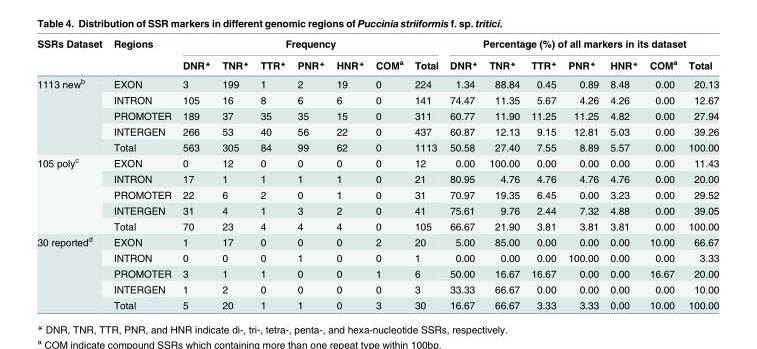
<table><thead><tr><td rowspan="2">SSRs Dataset</td><td rowspan="2">Regions</td><td colspan="7">Frequency</td><td colspan="7">Percentage (%) of all markers in its dataset</td></tr><tr><td>DNR*</td><td>TNR*</td><td>TTR*</td><td>PNR*</td><td>HNR*</td><td>COM<sup>a</sup></td><td>Total</td><td>DNR*</td><td>TNR*</td><td>TTR*</td><td>PNR*</td><td>HNR*</td><td>COM<sup>a</sup></td><td>Total</td></tr></thead><tbody><tr><td rowspan="5">1113 new<sup>b</sup></td><td>EXON</td><td>3</td><td>199</td><td>1</td><td>2</td><td>19</td><td>0</td><td>224</td><td>1.34</td><td>88.84</td><td>0.45</td><td>0.89</td><td>8.48</td><td>0.00</td><td>20.13</td></tr><tr><td>INTRON</td><td>105</td><td>16</td><td>8</td><td>6</td><td>6</td><td>0</td><td>141</td><td>74.47</td><td>11.35</td><td>5.67</td><td>4.26</td><td>4.26</td><td>0.00</td><td>12.67</td></tr><tr><td>PROMOTER</td><td>189</td><td>37</td><td>35</td><td>35</td><td>15</td><td>0</td><td>311</td><td>60.77</td><td>11.90</td><td>11.25</td><td>11.25</td><td>4.82</td><td>0.00</td><td>27.94</td></tr><tr><td>INTERGEN</td><td>266</td><td>53</td><td>40</td><td>56</td><td>22</td><td>0</td><td>437</td><td>60.87</td><td>12.13</td><td>9.15</td><td>12.81</td><td>5.03</td><td>0.00</td><td>39.26</td></tr><tr><td>Total</td><td>563</td><td>305</td><td>84</td><td>99</td><td>62</td><td>0</td><td>1113</td><td>50.58</td><td>27.40</td><td>7.55</td><td>8.89</td><td>5.57</td><td>0.00</td><td>100.00</td></tr><tr><td rowspan="5">105 poly<sup>c</sup></td><td>EXON</td><td>0</td><td>12</td><td>0</td><td>0</td><td>0</td><td>0</td><td>12</td><td>0.00</td><td>100.00</td><td>0.00</td><td>0.00</td><td>0.00</td><td>0.00</td><td>11.43</td></tr><tr><td>INTRON</td><td>17</td><td>1</td><td>1</td><td>1</td><td>1</td><td>0</td><td>21</td><td>80.95</td><td>4.76</td><td>4.76</td><td>4.76</td><td>4.76</td><td>0.00</td><td>20.00</td></tr><tr><td>PROMOTER</td><td>22</td><td>6</td><td>2</td><td>0</td><td>1</td><td>0</td><td>31</td><td>70.97</td><td>19.35</td><td>6.45</td><td>0.00</td><td>3.23</td><td>0.00</td><td>29.52</td></tr><tr><td>INTERGEN</td><td>31</td><td>4</td><td>1</td><td>3</td><td>2</td><td>0</td><td>41</td><td>75.61</td><td>9.76</td><td>2.44</td><td>7.32</td><td>4.88</td><td>0.00</td><td>39.05</td></tr><tr><td>Total</td><td>70</td><td>23</td><td>4</td><td>4</td><td>4</td><td>0</td><td>105</td><td>66.67</td><td>21.90</td><td>3.81</td><td>3.81</td><td>3.81</td><td>0.00</td><td>100.00</td></tr><tr><td rowspan="5">30 reported<sup>d</sup></td><td>EXON</td><td>1</td><td>17</td><td>0</td><td>0</td><td>0</td><td>2</td><td>20</td><td>5.00</td><td>85.00</td><td>0.00</td><td>0.00</td><td>0.00</td><td>10.00</td><td>66.67</td></tr><tr><td>INTRON</td><td>0</td><td>0</td><td>0</td><td>1</td><td>0</td><td>0</td><td>1</td><td>0.00</td><td>0.00</td><td>0.00</td><td>100.00</td><td>0.00</td><td>0.00</td><td>3.33</td></tr><tr><td>PROMOTER</td><td>3</td><td>1</td><td>1</td><td>0</td><td>0</td><td>1</td><td>6</td><td>50.00</td><td>16.67</td><td>16.67</td><td>0.00</td><td>0.00</td><td>16.67</td><td>20.00</td></tr><tr><td>INTERGEN</td><td>1</td><td>2</td><td>0</td><td>0</td><td>0</td><td>0</td><td>3</td><td>33.33</td><td>66.67</td><td>0.00</td><td>0.00</td><td>0.00</td><td>0.00</td><td>10.00</td></tr><tr><td>Total</td><td>5</td><td>20</td><td>1</td><td>1</td><td>0</td><td>3</td><td>30</td><td>16.67</td><td>66.67</td><td>3.33</td><td>3.33</td><td>0.00</td><td>10.00</td><td>100.00</td></tr></tbody></table>